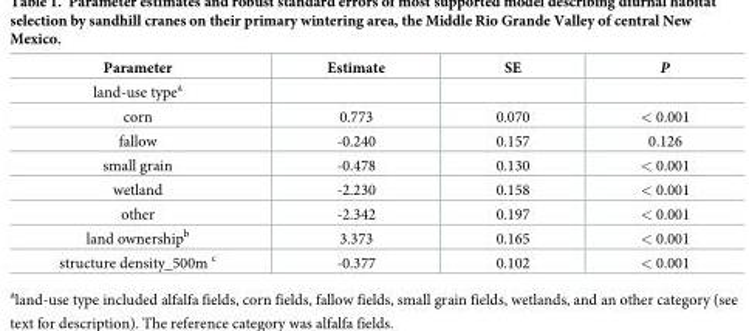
<table><thead><tr><td>Parameter</td><td>Estimate</td><td>SE</td><td>P</td></tr></thead><tbody><tr><td colspan="4">land-use type<sup>a</sup></td></tr><tr><td>corn</td><td>0.773</td><td>0.070</td><td>&lt; 0.001</td></tr><tr><td>fallow</td><td>-0.240</td><td>0.157</td><td>0.126</td></tr><tr><td>small grain</td><td>-0.478</td><td>0.130</td><td>&lt; 0.001</td></tr><tr><td>wetland</td><td>-2.230</td><td>0.158</td><td>&lt; 0.001</td></tr><tr><td>other</td><td>-2.342</td><td>0.197</td><td>&lt; 0.001</td></tr><tr><td>land ownership<sup>b</sup></td><td>3.373</td><td>0.165</td><td>&lt; 0.001</td></tr><tr><td>structure density_500m <sup>c</sup></td><td>-0.377</td><td>0.102</td><td>&lt; 0.001</td></tr></tbody></table>